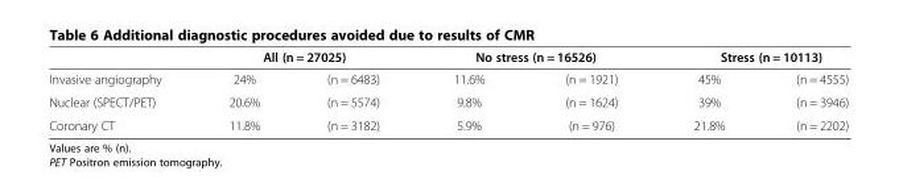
<table><thead><tr><td rowspan="2">Invasive angiography</td><td colspan="2">All (n = 27025)</td><td colspan="2">No stress (n = 16526)</td><td colspan="2">Stress (n = 10113)</td></tr><tr><td>24%</td><td>(n = 6483)</td><td>11.6%</td><td>(n = 1921)</td><td>45%</td><td>(n = 4555)</td></tr></thead><tbody><tr><td>Nuclear (SPECT/PET)</td><td>20.6%</td><td>(n = 5574)</td><td>9.8%</td><td>(n = 1624)</td><td>39%</td><td>(n = 3946)</td></tr><tr><td>Coronary CT</td><td>11.8%</td><td>(n = 3182)</td><td>5.9%</td><td>(n = 976)</td><td>21.8%</td><td>(n = 2202)</td></tr></tbody></table>